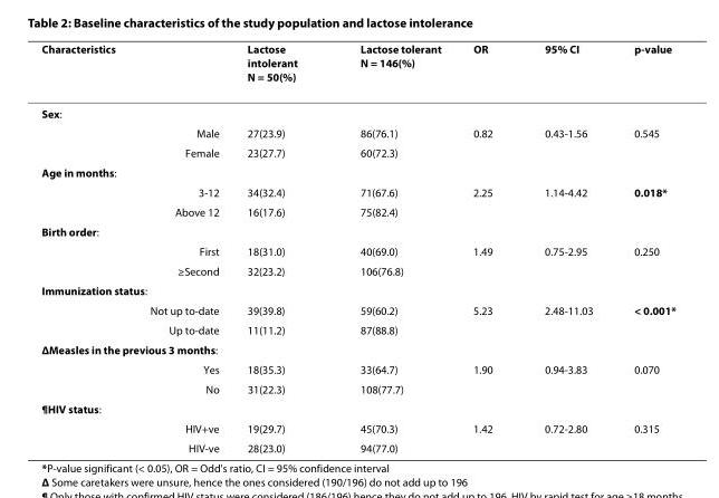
<table><thead><tr><td>Characteristics</td><td>Lactose intolerant N = 50(%)</td><td>Lactose tolerant N = 146(%)</td><td>OR</td><td>95% CI</td><td>p-value</td></tr></thead><tbody><tr><td colspan="6">Sex:</td></tr><tr><td>Male</td><td>27(23.9)</td><td>86(76.1)</td><td>0.82</td><td>0.43-1.56</td><td>0.545</td></tr><tr><td>Female</td><td>23(27.7)</td><td>60(72.3)</td><td></td><td></td><td></td></tr><tr><td colspan="6">Age in months:</td></tr><tr><td>3-12</td><td>34(32.4)</td><td>71(67.6)</td><td>2.25</td><td>1.14-4.42</td><td>0.018*</td></tr><tr><td>Above 12</td><td>16(17.6)</td><td>75(82.4)</td><td></td><td></td><td></td></tr><tr><td colspan="6">Birth order:</td></tr><tr><td>First</td><td>18(31.0)</td><td>40(69.0)</td><td>1.49</td><td>0.75-2.95</td><td>0.250</td></tr><tr><td>≥Second</td><td>32(23.2)</td><td>106(76.8)</td><td></td><td></td><td></td></tr><tr><td colspan="6">Immunization status:</td></tr><tr><td>Not up to-date</td><td>39(39.8)</td><td>59(60.2)</td><td>5.23</td><td>2.48-11.03</td><td>&lt; 0.001*</td></tr><tr><td>Up to-date</td><td>11(11.2)</td><td>87(88.8)</td><td></td><td></td><td></td></tr><tr><td colspan="6">ΔMeasles in the previous 3 months:</td></tr><tr><td>Yes</td><td>18(35.3)</td><td>33(64.7)</td><td>1.90</td><td>0.94-3.83</td><td>0.070</td></tr><tr><td>No</td><td>31(22.3)</td><td>108(77.7)</td><td></td><td></td><td></td></tr><tr><td colspan="6">¶HIV status:</td></tr><tr><td>HIV+ve</td><td>19(29.7)</td><td>45(70.3)</td><td>1.42</td><td>0.72-2.80</td><td>0.315</td></tr><tr><td>HIV-ve</td><td>28(23.0)</td><td>94(77.0)</td><td></td><td></td><td></td></tr></tbody></table>